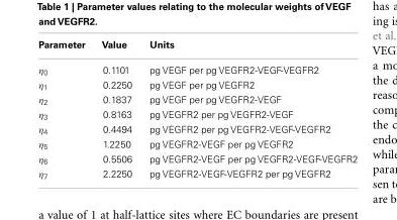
<table><thead><tr><td>Parameter</td><td>Value</td><td>Units</td></tr></thead><tbody><tr><td>η<sub>0</sub></td><td>0.1101</td><td>pg VEGF per pg VEGFR2-VEGF-VEGFR2</td></tr><tr><td>η<sub>1</sub></td><td>0.2250</td><td>pg VEGF per pg VEGFR2</td></tr><tr><td>η<sub>2</sub></td><td>0.1837</td><td>pg VEGF per pg VEGFR2-VEGF</td></tr><tr><td>η<sub>3</sub></td><td>0.8163</td><td>pg VEGFR2 per pg VEGFR2-VEGF</td></tr><tr><td>η<sub>4</sub></td><td>0.4494</td><td>pg VEGFR2 per pg VEGFR2-VEGF-VEGFR2</td></tr><tr><td>η<sub>5</sub></td><td>1.2250</td><td>pg VEGFR2-VEGF per pg VEGFR2</td></tr><tr><td>η<sub>6</sub></td><td>0.5506</td><td>pg VEGFR2-VEGF per pg VEGFR2-VEGF-VEGFR2</td></tr><tr><td>η<sub>7</sub></td><td>2.2250</td><td>pg VEGFR2-VEGF-VEGFR2 per pg VEGFR2</td></tr></tbody></table>